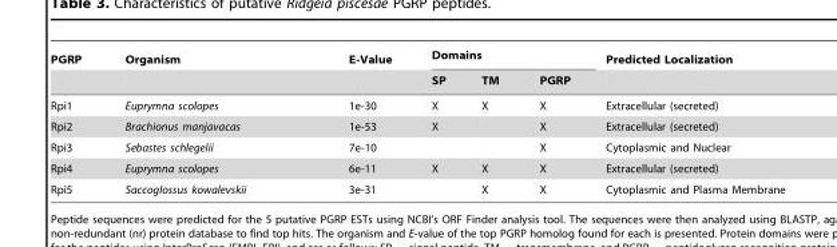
<table><thead><tr><td rowspan="2">PGRP</td><td rowspan="2">Organism</td><td rowspan="2">E-Value</td><td colspan="3">Domains</td><td rowspan="2">Predicted Localization</td></tr><tr><td>SP</td><td>TM</td><td>PGRP</td></tr></thead><tbody><tr><td>Rpi1</td><td>Euprymna scolopes</td><td>1e-30</td><td>X</td><td>X</td><td>X</td><td>Extracellular (secreted)</td></tr><tr><td>Rpi2</td><td>Brachionus manjavacas</td><td>1e-53</td><td>X</td><td></td><td>X</td><td>Extracellular (secreted)</td></tr><tr><td>Rpi3</td><td>Sebastes schlegelii</td><td>7e-10</td><td></td><td></td><td>X</td><td>Cytoplasmic and Nuclear</td></tr><tr><td>Rpi4</td><td>Euprymna scolopes</td><td>6e-11</td><td>X</td><td>X</td><td>X</td><td>Extracellular (secreted)</td></tr><tr><td>Rpi5</td><td>Saccoglossus kowalevskii</td><td>3e-31</td><td></td><td>X</td><td>X</td><td>Cytoplasmic and Plasma Membrane</td></tr></tbody></table>